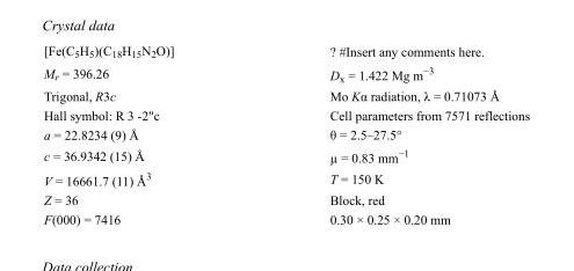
<table><tbody><tr><td>[Fe(C<sub>5</sub>H<sub>5</sub>)(C<sub>18</sub>H<sub>15</sub>N<sub>2</sub>O)]</td><td>? #Insert any comments here.</td></tr><tr><td>M<sub>r</sub> = 396.26</td><td>D<sub>x</sub> = 1.422 Mg m<sup>−3</sup></td></tr><tr><td>Trigonal, R3c</td><td>Mo Kα radiation, λ = 0.71073 Å</td></tr><tr><td>Hall symbol: R 3 -2&quot;c</td><td>Cell parameters from 7571 reflections</td></tr><tr><td>a = 22.8234 (9) Å</td><td>θ = 2.5–27.5°</td></tr><tr><td>c = 36.9342 (15) Å</td><td>µ = 0.83 mm<sup>−1</sup></td></tr><tr><td>V = 16661.7 (11) Å<sup>3</sup></td><td>T = 150 K</td></tr><tr><td>Z = 36</td><td>Block, red</td></tr><tr><td>F(000) = 7416</td><td>0.30 × 0.25 × 0.20 mm</td></tr></tbody></table>